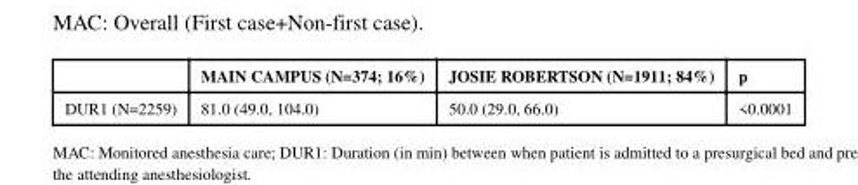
<table><thead><tr><td></td><td>MAIN CAMPUS (N=374; 16%)</td><td>JOSIE ROBERTSON (N=1911; 84%)</td><td>p</td></tr></thead><tbody><tr><td>DUR1 (N=2259)</td><td>81.0 (49.0, 104.0)</td><td>50.0 (29.0, 66.0)</td><td>&lt;0.0001</td></tr></tbody></table>